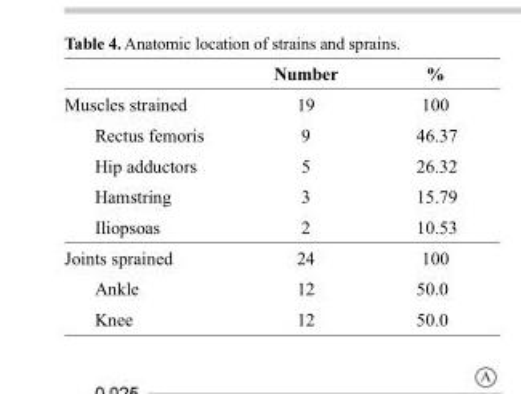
<table><thead><tr><td></td><td>Number</td><td>%</td></tr></thead><tbody><tr><td>Muscles strained</td><td>19</td><td>100</td></tr><tr><td>Rectus femoris</td><td>9</td><td>46.37</td></tr><tr><td>Hip adductors</td><td>5</td><td>26.32</td></tr><tr><td>Hamstring</td><td>3</td><td>15.79</td></tr><tr><td>Iliopsoas</td><td>2</td><td>10.53</td></tr><tr><td>Joints sprained</td><td>24</td><td>100</td></tr><tr><td>Ankle</td><td>12</td><td>50.0</td></tr><tr><td>Knee</td><td>12</td><td>50.0</td></tr></tbody></table>